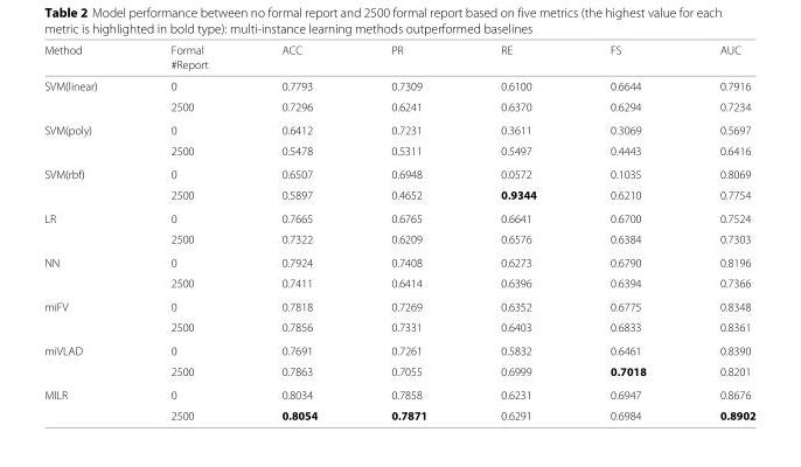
<table><thead><tr><td rowspan="2">Method</td><td rowspan="2">Formal #Report</td><td rowspan="2">ACC</td><td rowspan="2">PR</td><td rowspan="2">RE</td><td rowspan="2">FS</td><td rowspan="2">AUC</td></tr><tr></tr></thead><tbody><tr><td rowspan="2">SVM(linear)</td><td>0</td><td>0.7793</td><td>0.7309</td><td>0.6100</td><td>0.6644</td><td>0.7916</td></tr><tr><td>2500</td><td>0.7296</td><td>0.6241</td><td>0.6370</td><td>0.6294</td><td>0.7234</td></tr><tr><td rowspan="2">SVM(poly)</td><td>0</td><td>0.6412</td><td>0.7231</td><td>0.3611</td><td>0.3069</td><td>0.5697</td></tr><tr><td>2500</td><td>0.5478</td><td>0.5311</td><td>0.5497</td><td>0.4443</td><td>0.6416</td></tr><tr><td rowspan="2">SVM(rbf)</td><td>0</td><td>0.6507</td><td>0.6948</td><td>0.0572</td><td>0.1035</td><td>0.8069</td></tr><tr><td>2500</td><td>0.5897</td><td>0.4652</td><td>0.9344</td><td>0.6210</td><td>0.7754</td></tr><tr><td rowspan="2">LR</td><td>0</td><td>0.7665</td><td>0.6765</td><td>0.6641</td><td>0.6700</td><td>0.7524</td></tr><tr><td>2500</td><td>0.7322</td><td>0.6209</td><td>0.6576</td><td>0.6384</td><td>0.7303</td></tr><tr><td rowspan="2">NN</td><td>0</td><td>0.7924</td><td>0.7408</td><td>0.6273</td><td>0.6790</td><td>0.8196</td></tr><tr><td>2500</td><td>0.7411</td><td>0.6414</td><td>0.6396</td><td>0.6394</td><td>0.7366</td></tr><tr><td rowspan="2">miFV</td><td>0</td><td>0.7818</td><td>0.7269</td><td>0.6352</td><td>0.6775</td><td>0.8348</td></tr><tr><td>2500</td><td>0.7856</td><td>0.7331</td><td>0.6403</td><td>0.6833</td><td>0.8361</td></tr><tr><td rowspan="2">miVLAD</td><td>0</td><td>0.7691</td><td>0.7261</td><td>0.5832</td><td>0.6461</td><td>0.8390</td></tr><tr><td>2500</td><td>0.7863</td><td>0.7055</td><td>0.6999</td><td>0.7018</td><td>0.8201</td></tr><tr><td rowspan="2">MILR</td><td>0</td><td>0.8034</td><td>0.7858</td><td>0.6231</td><td>0.6947</td><td>0.8676</td></tr><tr><td>2500</td><td>0.8054</td><td>0.7871</td><td>0.6291</td><td>0.6984</td><td>0.8902</td></tr></tbody></table>